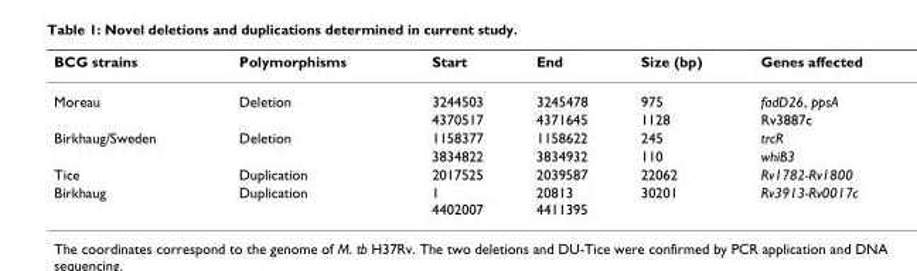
<table><thead><tr><td>BCG strains</td><td>Polymorphisms</td><td>Start</td><td>End</td><td>Size (bp)</td><td>Genes affected</td></tr></thead><tbody><tr><td rowspan="2">Moreau</td><td>Deletion</td><td>3244503</td><td>3245478</td><td>975</td><td>fadD26, ppsA</td></tr><tr><td></td><td>4370517</td><td>4371645</td><td>1128</td><td>Rv3887c</td></tr><tr><td rowspan="2">Birkhaug/Sweden</td><td>Deletion</td><td>1158377</td><td>1158622</td><td>245</td><td>trcR</td></tr><tr><td></td><td>3834822</td><td>3834932</td><td>110</td><td>whiB3</td></tr><tr><td>Tice</td><td>Duplication</td><td>2017525</td><td>2039587</td><td>22062</td><td>Rv1782-Rv1800</td></tr><tr><td>Birkhaug</td><td>Duplication</td><td>1 4402007</td><td>20813 4411395</td><td>30201</td><td>Rv3913-Rv0017c</td></tr></tbody></table>